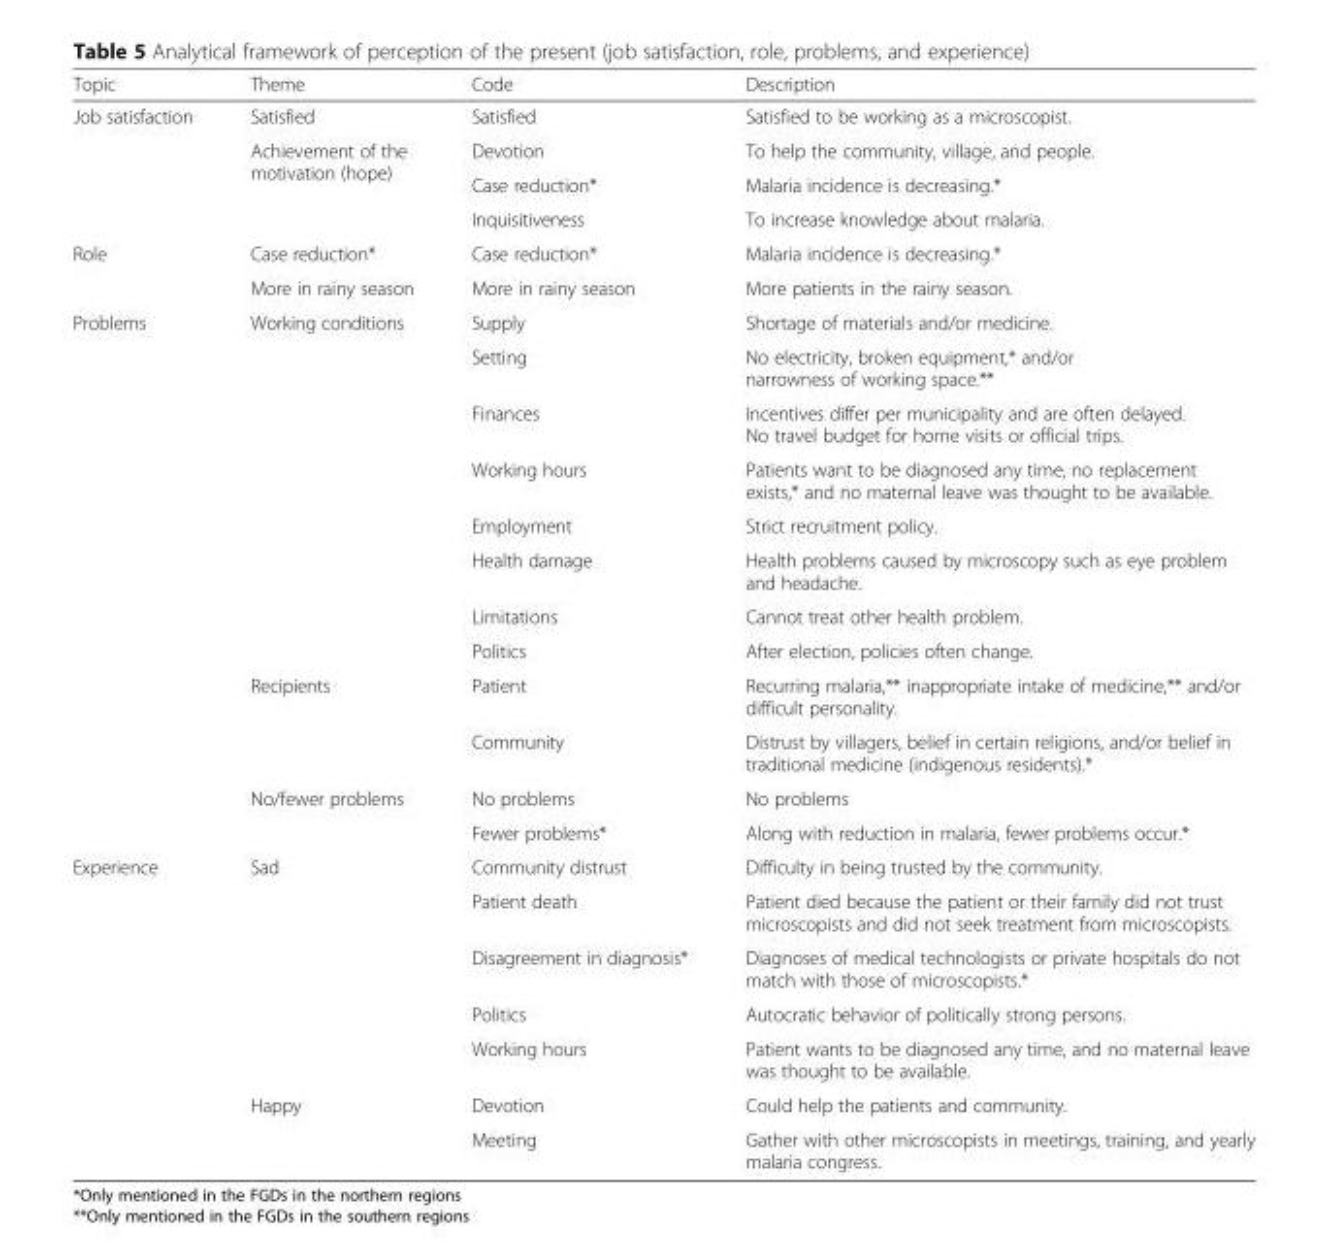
<table><thead><tr><td>Topic</td><td>Theme</td><td>Code</td><td>Description</td></tr></thead><tbody><tr><td rowspan="4">Job satisfaction</td><td>Satisfied</td><td>Satisfied</td><td>Satisfied to be working as a microscopist.</td></tr><tr><td rowspan="3">Achievement of the motivation (hope)</td><td>Devotion</td><td>To help the community, village, and people.</td></tr><tr><td>Case reduction*</td><td>Malaria incidence is decreasing.*</td></tr><tr><td>Inquisitiveness</td><td>To increase knowledge about malaria.</td></tr><tr><td rowspan="2">Role</td><td>Case reduction*</td><td>Case reduction*</td><td>Malaria incidence is decreasing.*</td></tr><tr><td>More in rainy season</td><td>More in rainy season</td><td>More patients in the rainy season.</td></tr><tr><td rowspan="12">Problems</td><td rowspan="8">Working conditions</td><td>Supply</td><td>Shortage of materials and/or medicine.</td></tr><tr><td>Setting</td><td>No electricity, broken equipment,* and/or narrowness of working space.**</td></tr><tr><td>Finances</td><td>Incentives differ per municipality and are often delayed. No travel budget for home visits or official trips.</td></tr><tr><td>Working hours</td><td>Patients want to be diagnosed any time, no replacement exists,* and no maternal leave was thought to be available.</td></tr><tr><td>Employment</td><td>Strict recruitment policy.</td></tr><tr><td>Health damage</td><td>Health problems caused by microscopy such as eye problem and headache.</td></tr><tr><td>Limitations</td><td>Cannot treat other health problem.</td></tr><tr><td>Politics</td><td>After election, policies often change.</td></tr><tr><td rowspan="2">Recipients</td><td>Patient</td><td>Recurring malaria,** inappropriate intake of medicine,** and/or difficult personality.</td></tr><tr><td>Community</td><td>Distrust by villagers, belief in certain religions, and/or belief in traditional medicine (indigenous residents).*</td></tr><tr><td rowspan="2">No/fewer problems</td><td>No problems</td><td>No problems</td></tr><tr><td>Fewer problems*</td><td>Along with reduction in malaria, fewer problems occur.*</td></tr><tr><td rowspan="7">Experience</td><td rowspan="5">Sad</td><td>Community distrust</td><td>Difficulty in being trusted by the community.</td></tr><tr><td>Patient death</td><td>Patient died because the patient or their family did not trust microscopists and did not seek treatment from microscopists.</td></tr><tr><td>Disagreement in diagnosis*</td><td>Diagnoses of medical technologists or private hospitals do not match with those of microscopists.*</td></tr><tr><td>Politics</td><td>Autocratic behavior of politically strong persons.</td></tr><tr><td>Working hours</td><td>Patient wants to be diagnosed any time, and no maternal leave was thought to be available.</td></tr><tr><td rowspan="2">Happy</td><td>Devotion</td><td>Could help the patients and community.</td></tr><tr><td>Meeting</td><td>Gather with other microscopists in meetings, training, and yearly malaria congress.</td></tr></tbody></table>